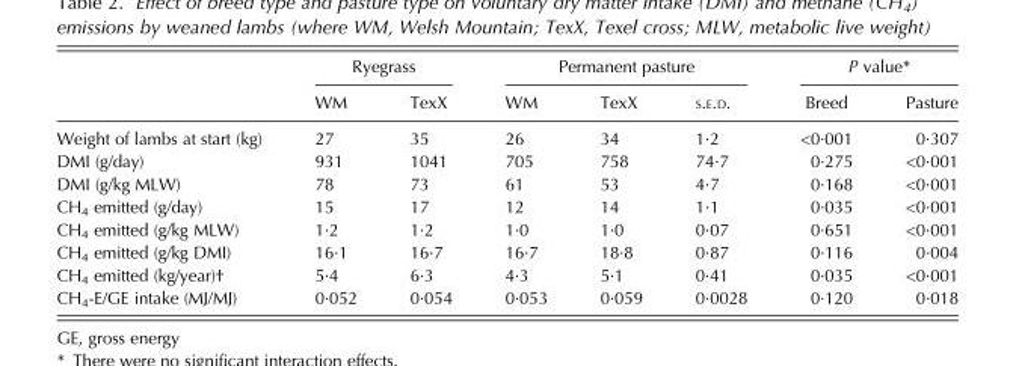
<table><thead><tr><td rowspan="2"></td><td colspan="2">Ryegrass</td><td colspan="3">Permanent pasture</td><td colspan="2">P value*</td></tr><tr><td>WM</td><td>TexX</td><td>WM</td><td>TexX</td><td>S.E.D.</td><td>Breed</td><td>Pasture</td></tr></thead><tbody><tr><td>Weight of lambs at start (kg)</td><td>27</td><td>35</td><td>26</td><td>34</td><td>1·2</td><td>&lt;0·001</td><td>0·307</td></tr><tr><td>DMI (g/day)</td><td>931</td><td>1041</td><td>705</td><td>758</td><td>74·7</td><td>0·275</td><td>&lt;0·001</td></tr><tr><td>DMI (g/kg MLW)</td><td>78</td><td>73</td><td>61</td><td>53</td><td>4·7</td><td>0·168</td><td>&lt;0·001</td></tr><tr><td>CH<sub>4</sub> emitted (g/day)</td><td>15</td><td>17</td><td>12</td><td>14</td><td>1·1</td><td>0·035</td><td>&lt;0·001</td></tr><tr><td>CH<sub>4</sub> emitted (g/kg MLW)</td><td>1·2</td><td>1·2</td><td>1·0</td><td>1·0</td><td>0·07</td><td>0·651</td><td>&lt;0·001</td></tr><tr><td>CH<sub>4</sub> emitted (g/kg DMI)</td><td>16·1</td><td>16·7</td><td>16·7</td><td>18·8</td><td>0·87</td><td>0·116</td><td>0·004</td></tr><tr><td>CH<sub>4</sub> emitted (kg/year)†</td><td>5·4</td><td>6·3</td><td>4·3</td><td>5·1</td><td>0·41</td><td>0·035</td><td>&lt;0·001</td></tr><tr><td>CH<sub>4</sub>-E/GE intake (MJ/MJ)</td><td>0·052</td><td>0·054</td><td>0·053</td><td>0·059</td><td>0·0028</td><td>0·120</td><td>0·018</td></tr></tbody></table>